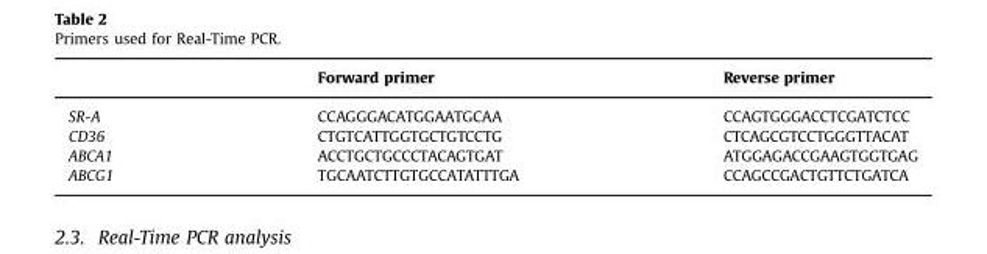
<table><thead><tr><td></td><td>Forward primer</td><td>Reverse primer</td></tr></thead><tbody><tr><td>SR-A</td><td>CCAGGGACATGGAATGCAA</td><td>CCAGTGGGACCTCGATCTCC</td></tr><tr><td>CD36</td><td>CTGTCATTGGTGCTGTCCTG</td><td>CTCAGCGTCCTGGGTTACAT</td></tr><tr><td>ABCA1</td><td>ACCTGCTGCCCTACAGTGAT</td><td>ATGGAGACCGAAGTGGTGAG</td></tr><tr><td>ABCG1</td><td>TGCAATCTTGTGCCATATTTGA</td><td>CCAGCCGACTGTTCTGATCA</td></tr></tbody></table>